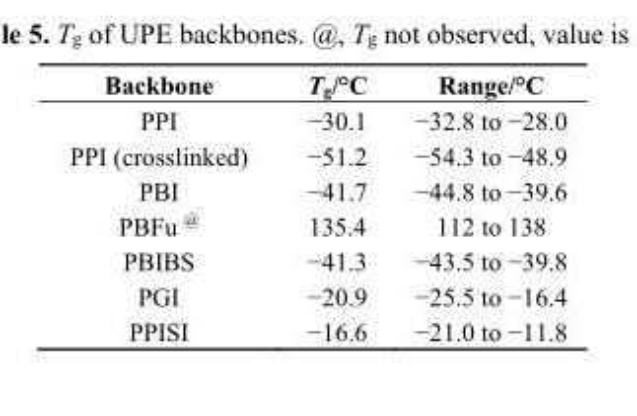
<table><thead><tr><td>Backbone</td><td>T<sub>g</sub>/°C</td><td>Range/°C</td></tr></thead><tbody><tr><td>PPI</td><td>−30.1</td><td>−32.8 to −28.0</td></tr><tr><td>PPI (crosslinked)</td><td>−51.2</td><td>−54.3 to −48.9</td></tr><tr><td>PBI</td><td>−41.7</td><td>−44.8 to −39.6</td></tr><tr><td>PBFu <sup>@</sup></td><td>135.4</td><td>112 to 138</td></tr><tr><td>PBIBS</td><td>−41.3</td><td>−43.5 to −39.8</td></tr><tr><td>PGI</td><td>−20.9</td><td>−25.5 to −16.4</td></tr><tr><td>PPISI</td><td>−16.6</td><td>−21.0 to −11.8</td></tr></tbody></table>